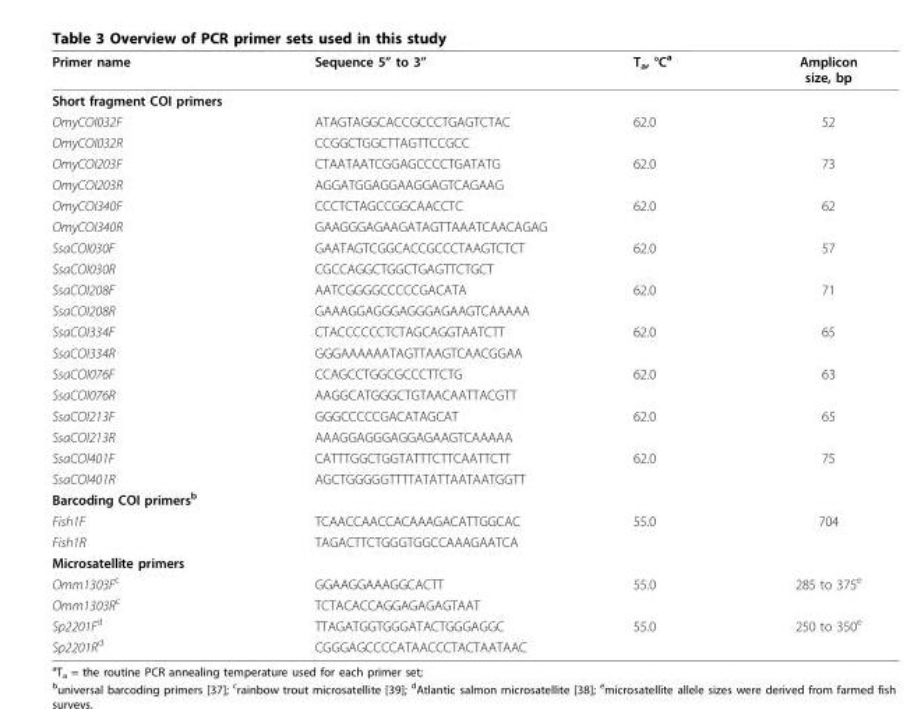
<table><thead><tr><td>Primer name</td><td>Sequence 5” to 3”</td><td>T<sub>a</sub>, °C<sup>a</sup></td><td>Amplicon size, bp</td></tr></thead><tbody><tr><td colspan="4">Short fragment COI primers</td></tr><tr><td>OmyCOI032F</td><td>ATAGTAGGCACCGCCCTGAGTCTAC</td><td>62.0</td><td>52</td></tr><tr><td>OmyCOI032R</td><td>CCGGCTGGCTTAGTTCCGCC</td><td></td><td></td></tr><tr><td>OmyCOI203F</td><td>CTAATAATCGGAGCCCCTGATATG</td><td>62.0</td><td>73</td></tr><tr><td>OmyCOI203R</td><td>AGGATGGAGGAAGGAGTCAGAAG</td><td></td><td></td></tr><tr><td>OmyCOI340F</td><td>CCCTCTAGCCGGCAACCTC</td><td>62.0</td><td>62</td></tr><tr><td>OmyCOI340R</td><td>GAAGGGAGAAGATAGTTAAATCAACAGAG</td><td></td><td></td></tr><tr><td>SsaCOI030F</td><td>GAATAGTCGGCACCGCCCTAAGTCTCT</td><td>62.0</td><td>57</td></tr><tr><td>SsaCOI030R</td><td>CGCCAGGCTGGCTGAGTTCTGCT</td><td></td><td></td></tr><tr><td>SsaCOI208F</td><td>AATCGGGGCCCCCGACATA</td><td>62.0</td><td>71</td></tr><tr><td>SsaCOI208R</td><td>GAAAGGAGGGAGGGAGAAGTCAAAAA</td><td></td><td></td></tr><tr><td>SsaCOI334F</td><td>CTACCCCCCTCTAGCAGGTAATCTT</td><td>62.0</td><td>65</td></tr><tr><td>SsaCOI334R</td><td>GGGAAAAAATAGTTAAGTCAACGGAA</td><td></td><td></td></tr><tr><td>SsaCOI076F</td><td>CCAGCCTGGCGCCCTTCTG</td><td>62.0</td><td>63</td></tr><tr><td>SsaCOI076R</td><td>AAGGCATGGGCTGTAACAATTACGTT</td><td></td><td></td></tr><tr><td>SsaCOI213F</td><td>GGGCCCCCGACATAGCAT</td><td>62.0</td><td>65</td></tr><tr><td>SsaCOI213R</td><td>AAAGGAGGGAGGAGAAGTCAAAAA</td><td></td><td></td></tr><tr><td>SsaCOI401F</td><td>CATTTGGCTGGTATTTCTTCAATTCTT</td><td>62.0</td><td>75</td></tr><tr><td>SsaCOI401R</td><td>AGCTGGGGGTTTTATATTAATAATGGTT</td><td></td><td></td></tr><tr><td colspan="4">Barcoding COI primers<sup>b</sup></td></tr><tr><td>Fish1F</td><td>TCAACCAACCACAAAGACATTGGCAC</td><td>55.0</td><td>704</td></tr><tr><td>Fish1R</td><td>TAGACTTCTGGGTGGCCAAAGAATCA</td><td></td><td></td></tr><tr><td colspan="4">Microsatellite primers</td></tr><tr><td>Omm1303F<sup>c</sup></td><td>GGAAGGAAAGGCACTT</td><td>55.0</td><td>285 to 375<sup>e</sup></td></tr><tr><td>Omm1303R<sup>c</sup></td><td>TCTACACCAGGAGAGAGTAAT</td><td></td><td></td></tr><tr><td>Sp2201F<sup>d</sup></td><td>TTAGATGGTGGGATACTGGGAGGC</td><td>55.0</td><td>250 to 350<sup>e</sup></td></tr><tr><td>Sp2201R<sup>d</sup></td><td>CGGGAGCCCCATAACCCTACTAATAAC</td><td></td><td></td></tr></tbody></table>